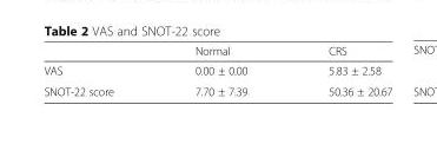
<table><thead><tr><td></td><td>Normal</td><td>CRS</td></tr></thead><tbody><tr><td>VAS</td><td>0.00 ± 0.00</td><td>5.83 ± 2.58</td></tr><tr><td>SNOT-22 score</td><td>7.70 ± 7.39</td><td>50.36 ± 20.67</td></tr></tbody></table>